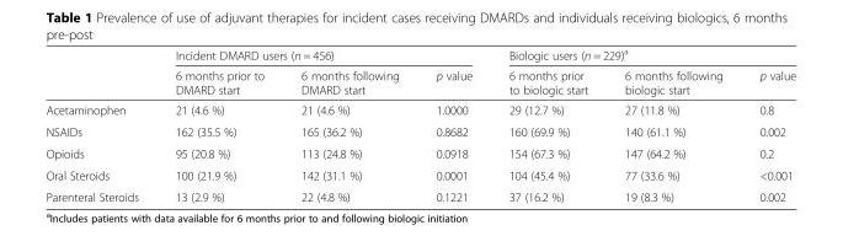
<table><thead><tr><td rowspan="2"></td><td colspan="3">Incident DMARD users (n = 456)</td><td colspan="3">Biologic users (n = 229)<sup>a</sup></td></tr><tr><td>6 months prior to DMARD start</td><td>6 months following DMARD start</td><td>p value</td><td>6 months prior to biologic start</td><td>6 months following biologic start</td><td>p value</td></tr></thead><tbody><tr><td>Acetaminophen</td><td>21 (4.6 %)</td><td>21 (4.6 %)</td><td>1.0000</td><td>29 (12.7 %)</td><td>27 (11.8 %)</td><td>0.8</td></tr><tr><td>NSAIDs</td><td>162 (35.5 %)</td><td>165 (36.2 %)</td><td>0.8682</td><td>160 (69.9 %)</td><td>140 (61.1 %)</td><td>0.002</td></tr><tr><td>Opioids</td><td>95 (20.8 %)</td><td>113 (24.8 %)</td><td>0.0918</td><td>154 (67.3 %)</td><td>147 (64.2 %)</td><td>0.2</td></tr><tr><td>Oral Steroids</td><td>100 (21.9 %)</td><td>142 (31.1 %)</td><td>0.0001</td><td>104 (45.4 %)</td><td>77 (33.6 %)</td><td>&lt;0.001</td></tr><tr><td>Parenteral Steroids</td><td>13 (2.9 %)</td><td>22 (4.8 %)</td><td>0.1221</td><td>37 (16.2 %)</td><td>19 (8.3 %)</td><td>0.002</td></tr></tbody></table>